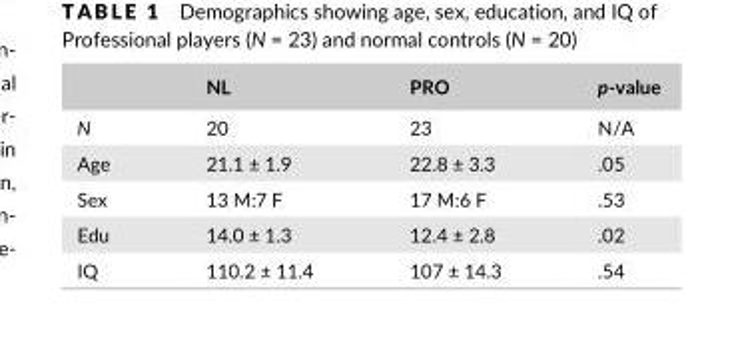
<table><thead><tr><td></td><td>NL</td><td>PRO</td><td>p- value</td></tr></thead><tbody><tr><td>N</td><td>20</td><td>23</td><td>N/A</td></tr><tr><td>Age</td><td>21.1 ± 1.9</td><td>22.8 ± 3.3</td><td>.05</td></tr><tr><td>Sex</td><td>13 M:7 F</td><td>17 M:6 F</td><td>.53</td></tr><tr><td>Edu</td><td>14.0 ± 1.3</td><td>12.4 ± 2.8</td><td>.02</td></tr><tr><td>IQ</td><td>110.2 ± 11.4</td><td>107 ± 14.3</td><td>.54</td></tr></tbody></table>